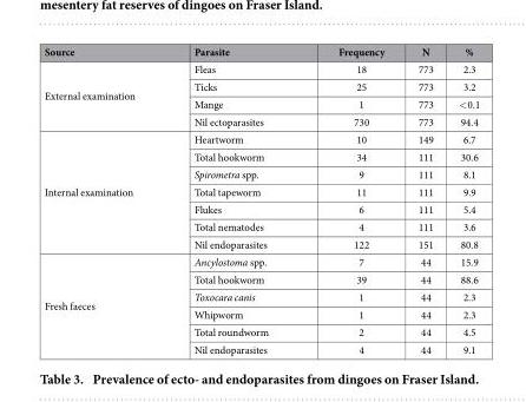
<table><thead><tr><td>Source</td><td>Parasite</td><td>Frequency</td><td>N</td><td>%</td></tr></thead><tbody><tr><td rowspan="4">External examination</td><td>Fleas</td><td>18</td><td>773</td><td>2.3</td></tr><tr><td>Ticks</td><td>25</td><td>773</td><td>3.2</td></tr><tr><td>Mange</td><td>1</td><td>773</td><td>&lt; 0.1</td></tr><tr><td>Nil ectoparasites</td><td>730</td><td>773</td><td>94.4</td></tr><tr><td rowspan="7">Internal examination</td><td>Heartworm</td><td>10</td><td>149</td><td>6.7</td></tr><tr><td>Total hookworm</td><td>34</td><td>111</td><td>30.6</td></tr><tr><td>Spirometra spp.</td><td>9</td><td>111</td><td>8.1</td></tr><tr><td>Total tapeworm</td><td>11</td><td>111</td><td>9.9</td></tr><tr><td>Flukes</td><td>6</td><td>111</td><td>5.4</td></tr><tr><td>Total nematodes</td><td>4</td><td>111</td><td>3.6</td></tr><tr><td>Nil endoparasites</td><td>122</td><td>151</td><td>80.8</td></tr><tr><td rowspan="6">Fresh faeces</td><td>Ancylostoma spp.</td><td>7</td><td>44</td><td>15.9</td></tr><tr><td>Total hookworm</td><td>39</td><td>44</td><td>88.6</td></tr><tr><td>Toxocara canis</td><td>1</td><td>44</td><td>2.3</td></tr><tr><td>Whipworm</td><td>1</td><td>44</td><td>2.3</td></tr><tr><td>Total roundworm</td><td>2</td><td>44</td><td>4.5</td></tr><tr><td>Nil endoparasites</td><td>4</td><td>44</td><td>9.1</td></tr></tbody></table>